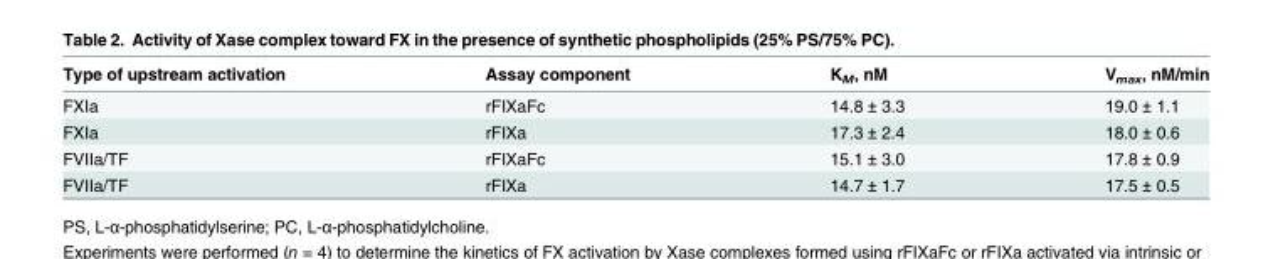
<table><thead><tr><td>Type of upstream activation</td><td>Assay component</td><td>K<sub>M</sub>, nM</td><td>V<sub>max</sub>, nM/min</td></tr></thead><tbody><tr><td>FXIa</td><td>rFIXaFc</td><td>14.8 ± 3.3</td><td>19.0 ± 1.1</td></tr><tr><td>FXIa</td><td>rFIXa</td><td>17.3 ± 2.4</td><td>18.0 ± 0.6</td></tr><tr><td>FVIIa/TF</td><td>rFIXaFc</td><td>15.1 ± 3.0</td><td>17.8 ± 0.9</td></tr><tr><td>FVIIa/TF</td><td>rFIXa</td><td>14.7 ± 1.7</td><td>17.5 ± 0.5</td></tr></tbody></table>